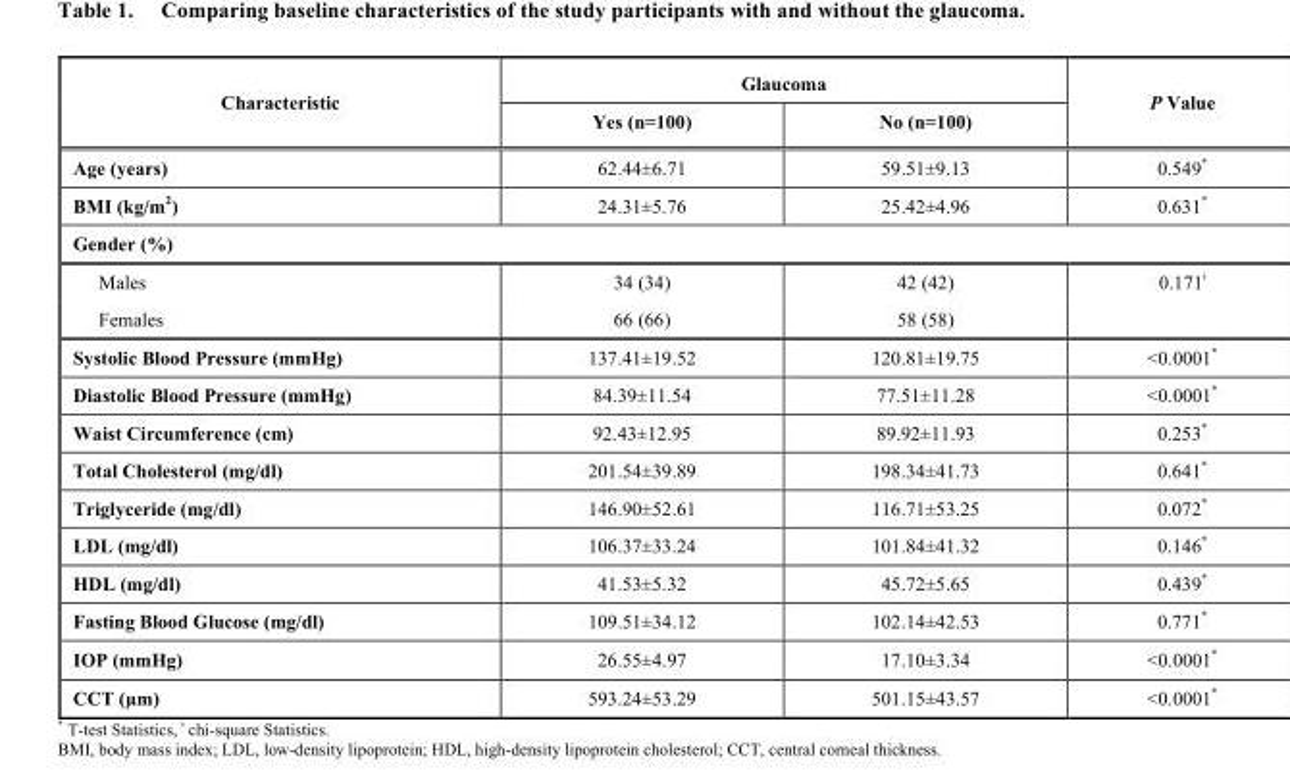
<table><thead><tr><td rowspan="2">Characteristic</td><td colspan="2">Glaucoma</td><td rowspan="2">P Value</td></tr><tr><td>Yes (n=100)</td><td>No (n=100)</td></tr></thead><tbody><tr><td>Age (years)</td><td>62.44±6.71</td><td>59.51±9.13</td><td>0.549*</td></tr><tr><td>BMI (kg/m2)</td><td>24.31±5.76</td><td>25.42±4.96</td><td>0.631*</td></tr><tr><td colspan="4">Gender (%)</td></tr><tr><td>Males</td><td>34 (34)</td><td>42 (42)</td><td>0.171ǂ</td></tr><tr><td>Females</td><td>66 (66)</td><td>58 (58)</td><td></td></tr><tr><td>Systolic Blood Pressure (mmHg)</td><td>137.41±19.52</td><td>120.81±19.75</td><td>&lt;0.0001*</td></tr><tr><td>Diastolic Blood Pressure (mmHg)</td><td>84.39±11.54</td><td>77.51±11.28</td><td>&lt;0.0001*</td></tr><tr><td>Waist Circumference (cm)</td><td>92.43±12.95</td><td>89.92±11.93</td><td>0.253*</td></tr><tr><td>Total Cholesterol (mg/dl)</td><td>201.54±39.89</td><td>198.34±41.73</td><td>0.641*</td></tr><tr><td>Triglyceride (mg/dl)</td><td>146.90±52.61</td><td>116.71±53.25</td><td>0.072*</td></tr><tr><td>LDL (mg/dl)</td><td>106.37±33.24</td><td>101.84±41.32</td><td>0.146*</td></tr><tr><td>HDL (mg/dl)</td><td>41.53±5.32</td><td>45.72±5.65</td><td>0.439*</td></tr><tr><td>Fasting Blood Glucose (mg/dl)</td><td>109.51±34.12</td><td>102.14±42.53</td><td>0.771*</td></tr><tr><td>IOP (mmHg)</td><td>26.55±4.97</td><td>17.10±3.34</td><td>&lt;0.0001*</td></tr><tr><td>CCT (µm)</td><td>593.24±53.29</td><td>501.15±43.57</td><td>&lt;0.0001*</td></tr></tbody></table>